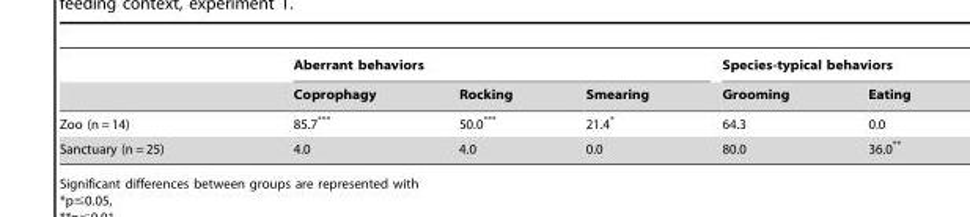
<table><thead><tr><td rowspan="2"></td><td colspan="3">Aberrant behaviors</td><td colspan="2">Species-typical behaviors</td></tr><tr><td>Coprophagy</td><td>Rocking</td><td>Smearing</td><td>Grooming</td><td>Eating</td></tr></thead><tbody><tr><td>Zoo (n = 14)</td><td>85.7***</td><td>50.0***</td><td>21.4*</td><td>64.3</td><td>0.0</td></tr><tr><td>Sanctuary (n = 25)</td><td>4.0</td><td>4.0</td><td>0.0</td><td>80.0</td><td>36.0**</td></tr></tbody></table>